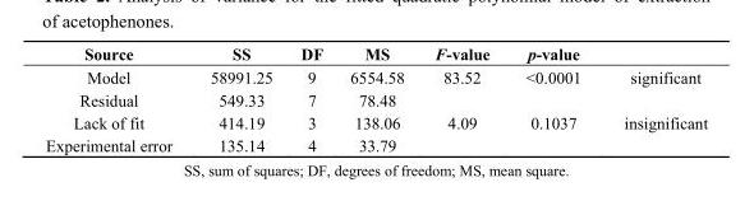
<table><thead><tr><td>Source</td><td>SS</td><td>DF</td><td>MS</td><td>F-value</td><td>p-value</td><td></td></tr></thead><tbody><tr><td>Model</td><td>58991.25</td><td>9</td><td>6554.58</td><td>83.52</td><td>&lt;0.0001</td><td>significant</td></tr><tr><td>Residual</td><td>549.33</td><td>7</td><td>78.48</td><td></td><td></td><td></td></tr><tr><td>Lack of fit</td><td>414.19</td><td>3</td><td>138.06</td><td>4.09</td><td>0.1037</td><td>insignificant</td></tr><tr><td>Experimental error</td><td>135.14</td><td>4</td><td>33.79</td><td></td><td></td><td></td></tr></tbody></table>